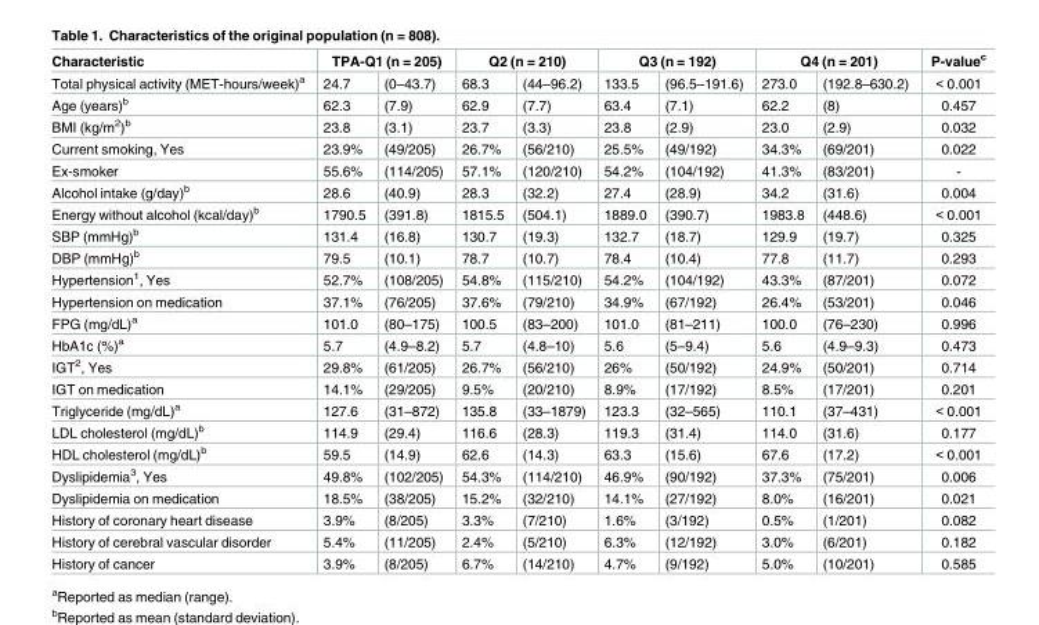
<table><thead><tr><td rowspan="2">Characteristic Total physical activity (MET-hours/week)<sup>a</sup></td><td colspan="2">TPA-Q1 (n = 205)</td><td colspan="2">Q2 (n = 210)</td><td colspan="2">Q3 (n = 192)</td><td colspan="2">Q4 (n = 201)</td><td rowspan="2">P-value<sup>c</sup> &lt; 0.001</td></tr><tr><td>24.7</td><td>(0–43.7)</td><td>68.3</td><td>(44–96.2)</td><td>133.5</td><td>(96.5–191.6)</td><td>273.0</td><td>(192.8–630.2)</td></tr></thead><tbody><tr><td>Age (years)<sup>b</sup></td><td>62.3</td><td>(7.9)</td><td>62.9</td><td>(7.7)</td><td>63.4</td><td>(7.1)</td><td>62.2</td><td>(8)</td><td>0.457</td></tr><tr><td>BMI (kg/m<sup>2</sup>)<sup>b</sup></td><td>23.8</td><td>(3.1)</td><td>23.7</td><td>(3.3)</td><td>23.8</td><td>(2.9)</td><td>23.0</td><td>(2.9)</td><td>0.032</td></tr><tr><td>Current smoking, Yes</td><td>23.9%</td><td>(49/205)</td><td>26.7%</td><td>(56/210)</td><td>25.5%</td><td>(49/192)</td><td>34.3%</td><td>(69/201)</td><td>0.022</td></tr><tr><td>Ex-smoker</td><td>55.6%</td><td>(114/205)</td><td>57.1%</td><td>(120/210)</td><td>54.2%</td><td>(104/192)</td><td>41.3%</td><td>(83/201)</td><td>-</td></tr><tr><td>Alcohol intake (g/day)<sup>b</sup></td><td>28.6</td><td>(40.9)</td><td>28.3</td><td>(32.2)</td><td>27.4</td><td>(28.9)</td><td>34.2</td><td>(31.6)</td><td>0.004</td></tr><tr><td>Energy without alcohol (kcal/day)<sup>b</sup></td><td>1790.5</td><td>(391.8)</td><td>1815.5</td><td>(504.1)</td><td>1889.0</td><td>(390.7)</td><td>1983.8</td><td>(448.6)</td><td>&lt; 0.001</td></tr><tr><td>SBP (mmHg)<sup>b</sup></td><td>131.4</td><td>(16.8)</td><td>130.7</td><td>(19.3)</td><td>132.7</td><td>(18.7)</td><td>129.9</td><td>(19.7)</td><td>0.325</td></tr><tr><td>DBP (mmHg)<sup>b</sup></td><td>79.5</td><td>(10.1)</td><td>78.7</td><td>(10.7)</td><td>78.4</td><td>(10.4)</td><td>77.8</td><td>(11.7)</td><td>0.293</td></tr><tr><td>Hypertension<sup>1</sup>, Yes</td><td>52.7%</td><td>(108/205)</td><td>54.8%</td><td>(115/210)</td><td>54.2%</td><td>(104/192)</td><td>43.3%</td><td>(87/201)</td><td>0.072</td></tr><tr><td>Hypertension on medication</td><td>37.1%</td><td>(76/205)</td><td>37.6%</td><td>(79/210)</td><td>34.9%</td><td>(67/192)</td><td>26.4%</td><td>(53/201)</td><td>0.046</td></tr><tr><td>FPG (mg/dL)<sup>a</sup></td><td>101.0</td><td>(80–175)</td><td>100.5</td><td>(83–200)</td><td>101.0</td><td>(81–211)</td><td>100.0</td><td>(76–230)</td><td>0.996</td></tr><tr><td>HbA1c (%)<sup>a</sup></td><td>5.7</td><td>(4.9–8.2)</td><td>5.7</td><td>(4.8–10)</td><td>5.6</td><td>(5–9.4)</td><td>5.6</td><td>(4.9–9.3)</td><td>0.473</td></tr><tr><td>IGT<sup>2</sup>, Yes</td><td>29.8%</td><td>(61/205)</td><td>26.7%</td><td>(56/210)</td><td>26%</td><td>(50/192)</td><td>24.9%</td><td>(50/201)</td><td>0.714</td></tr><tr><td>IGT on medication</td><td>14.1%</td><td>(29/205)</td><td>9.5%</td><td>(20/210)</td><td>8.9%</td><td>(17/192)</td><td>8.5%</td><td>(17/201)</td><td>0.201</td></tr><tr><td>Triglyceride (mg/dL)<sup>a</sup></td><td>127.6</td><td>(31–872)</td><td>135.8</td><td>(33–1879)</td><td>123.3</td><td>(32–565)</td><td>110.1</td><td>(37–431)</td><td>&lt; 0.001</td></tr><tr><td>LDL cholesterol (mg/dL)<sup>b</sup></td><td>114.9</td><td>(29.4)</td><td>116.6</td><td>(28.3)</td><td>119.3</td><td>(31.4)</td><td>114.0</td><td>(31.6)</td><td>0.177</td></tr><tr><td>HDL cholesterol (mg/dL)<sup>b</sup></td><td>59.5</td><td>(14.9)</td><td>62.6</td><td>(14.3)</td><td>63.3</td><td>(15.6)</td><td>67.6</td><td>(17.2)</td><td>&lt; 0.001</td></tr><tr><td>Dyslipidemia<sup>3</sup>, Yes</td><td>49.8%</td><td>(102/205)</td><td>54.3%</td><td>(114/210)</td><td>46.9%</td><td>(90/192)</td><td>37.3%</td><td>(75/201)</td><td>0.006</td></tr><tr><td>Dyslipidemia on medication</td><td>18.5%</td><td>(38/205)</td><td>15.2%</td><td>(32/210)</td><td>14.1%</td><td>(27/192)</td><td>8.0%</td><td>(16/201)</td><td>0.021</td></tr><tr><td>History of coronary heart disease</td><td>3.9%</td><td>(8/205)</td><td>3.3%</td><td>(7/210)</td><td>1.6%</td><td>(3/192)</td><td>0.5%</td><td>(1/201)</td><td>0.082</td></tr><tr><td>History of cerebral vascular disorder</td><td>5.4%</td><td>(11/205)</td><td>2.4%</td><td>(5/210)</td><td>6.3%</td><td>(12/192)</td><td>3.0%</td><td>(6/201)</td><td>0.182</td></tr><tr><td>History of cancer</td><td>3.9%</td><td>(8/205)</td><td>6.7%</td><td>(14/210)</td><td>4.7%</td><td>(9/192)</td><td>5.0%</td><td>(10/201)</td><td>0.585</td></tr></tbody></table>